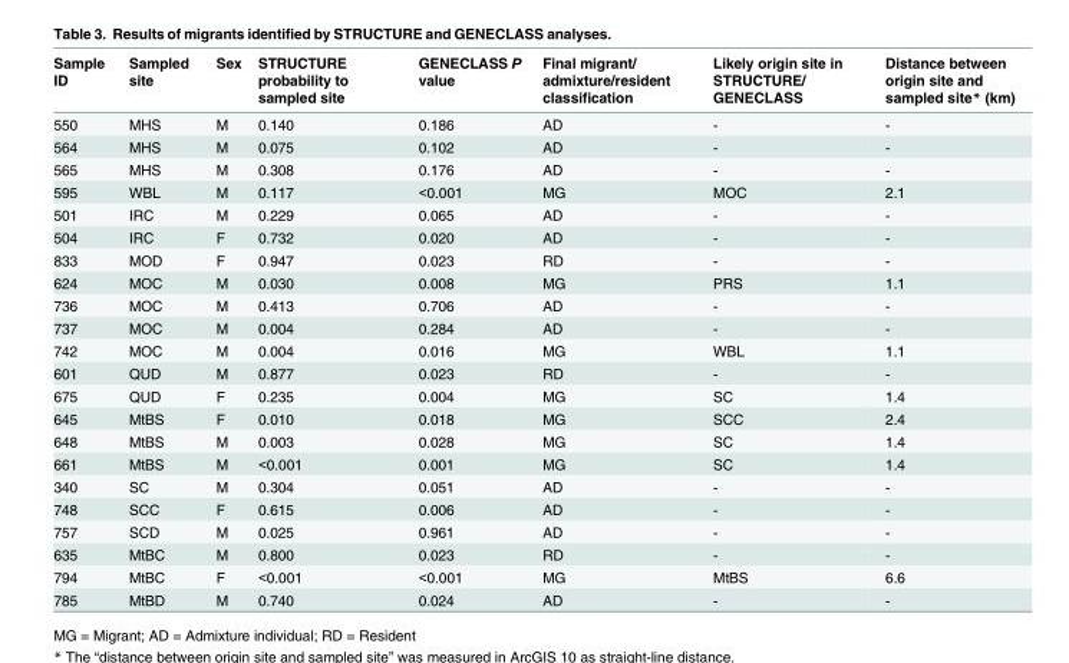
<table><thead><tr><td>Sample ID</td><td>Sampled site</td><td>Sex</td><td>STRUCTURE probability to sampled site</td><td>GENECLASS P value</td><td>Final migrant/ admixture/resident classification</td><td>Likely origin site in STRUCTURE/ GENECLASS</td><td>Distance between origin site and sampled site* (km)</td></tr></thead><tbody><tr><td>550</td><td>MHS</td><td>M</td><td>0.140</td><td>0.186</td><td>AD</td><td>-</td><td>-</td></tr><tr><td>564</td><td>MHS</td><td>M</td><td>0.075</td><td>0.102</td><td>AD</td><td>-</td><td>-</td></tr><tr><td>565</td><td>MHS</td><td>M</td><td>0.308</td><td>0.176</td><td>AD</td><td>-</td><td>-</td></tr><tr><td>595</td><td>WBL</td><td>M</td><td>0.117</td><td>&lt;0.001</td><td>MG</td><td>MOC</td><td>2.1</td></tr><tr><td>501</td><td>IRC</td><td>M</td><td>0.229</td><td>0.065</td><td>AD</td><td>-</td><td>-</td></tr><tr><td>504</td><td>IRC</td><td>F</td><td>0.732</td><td>0.020</td><td>AD</td><td>-</td><td>-</td></tr><tr><td>833</td><td>MOD</td><td>F</td><td>0.947</td><td>0.023</td><td>RD</td><td>-</td><td>-</td></tr><tr><td>624</td><td>MOC</td><td>M</td><td>0.030</td><td>0.008</td><td>MG</td><td>PRS</td><td>1.1</td></tr><tr><td>736</td><td>MOC</td><td>M</td><td>0.413</td><td>0.706</td><td>AD</td><td>-</td><td>-</td></tr><tr><td>737</td><td>MOC</td><td>M</td><td>0.004</td><td>0.284</td><td>AD</td><td>-</td><td>-</td></tr><tr><td>742</td><td>MOC</td><td>M</td><td>0.004</td><td>0.016</td><td>MG</td><td>WBL</td><td>1.1</td></tr><tr><td>601</td><td>QUD</td><td>M</td><td>0.877</td><td>0.023</td><td>RD</td><td>-</td><td>-</td></tr><tr><td>675</td><td>QUD</td><td>F</td><td>0.235</td><td>0.004</td><td>MG</td><td>SC</td><td>1.4</td></tr><tr><td>645</td><td>MtBS</td><td>F</td><td>0.010</td><td>0.018</td><td>MG</td><td>SCC</td><td>2.4</td></tr><tr><td>648</td><td>MtBS</td><td>M</td><td>0.003</td><td>0.028</td><td>MG</td><td>SC</td><td>1.4</td></tr><tr><td>661</td><td>MtBS</td><td>M</td><td>&lt;0.001</td><td>0.001</td><td>MG</td><td>SC</td><td>1.4</td></tr><tr><td>340</td><td>SC</td><td>M</td><td>0.304</td><td>0.051</td><td>AD</td><td>-</td><td>-</td></tr><tr><td>748</td><td>SCC</td><td>F</td><td>0.615</td><td>0.006</td><td>AD</td><td>-</td><td>-</td></tr><tr><td>757</td><td>SCD</td><td>M</td><td>0.025</td><td>0.961</td><td>AD</td><td>-</td><td>-</td></tr><tr><td>635</td><td>MtBC</td><td>M</td><td>0.800</td><td>0.023</td><td>RD</td><td>-</td><td>-</td></tr><tr><td>794</td><td>MtBC</td><td>F</td><td>&lt;0.001</td><td>&lt;0.001</td><td>MG</td><td>MtBS</td><td>6.6</td></tr><tr><td>785</td><td>MtBD</td><td>M</td><td>0.740</td><td>0.024</td><td>AD</td><td>-</td><td>-</td></tr></tbody></table>